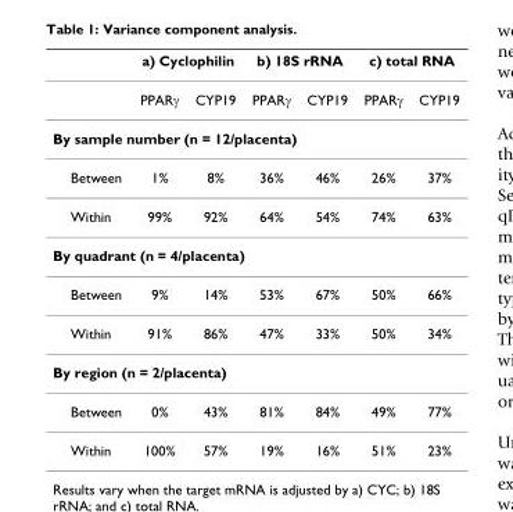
<table><thead><tr><td rowspan="2"></td><td colspan="2">a) Cyclophilin</td><td colspan="2">b) 18S rRNA</td><td colspan="2">c) total RNA</td></tr><tr><td>PPARγ</td><td>CYP19</td><td>PPARγ</td><td>CYP19</td><td>PPARγ</td><td>CYP19</td></tr></thead><tbody><tr><td colspan="7">By sample number (n = 12/placenta)</td></tr><tr><td>Between</td><td>1%</td><td>8%</td><td>36%</td><td>46%</td><td>26%</td><td>37%</td></tr><tr><td>Within</td><td>99%</td><td>92%</td><td>64%</td><td>54%</td><td>74%</td><td>63%</td></tr><tr><td colspan="7">By quadrant (n = 4/placenta)</td></tr><tr><td>Between</td><td>9%</td><td>14%</td><td>53%</td><td>67%</td><td>50%</td><td>66%</td></tr><tr><td>Within</td><td>91%</td><td>86%</td><td>47%</td><td>33%</td><td>50%</td><td>34%</td></tr><tr><td colspan="7">By region (n = 2/placenta)</td></tr><tr><td>Between</td><td>0%</td><td>43%</td><td>81%</td><td>84%</td><td>49%</td><td>77%</td></tr><tr><td>Within</td><td>100%</td><td>57%</td><td>19%</td><td>16%</td><td>51%</td><td>23%</td></tr></tbody></table>